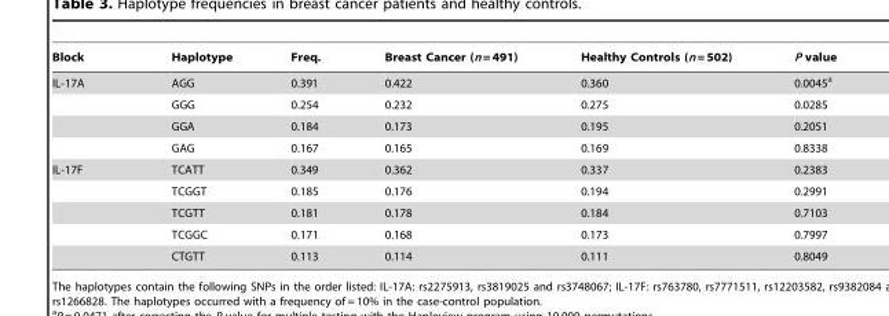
<table><thead><tr><td>Block</td><td>Haplotype</td><td>Freq.</td><td>Breast Cancer (n = 491)</td><td>Healthy Controls (n = 502)</td><td>P value</td></tr></thead><tbody><tr><td rowspan="4">IL-17A</td><td>AGG</td><td>0.391</td><td>0.422</td><td>0.360</td><td>0.0045<sup>a</sup></td></tr><tr><td>GGG</td><td>0.254</td><td>0.232</td><td>0.275</td><td>0.0285</td></tr><tr><td>GGA</td><td>0.184</td><td>0.173</td><td>0.195</td><td>0.2051</td></tr><tr><td>GAG</td><td>0.167</td><td>0.165</td><td>0.169</td><td>0.8338</td></tr><tr><td rowspan="5">IL-17F</td><td>TCATT</td><td>0.349</td><td>0.362</td><td>0.337</td><td>0.2383</td></tr><tr><td>TCGGT</td><td>0.185</td><td>0.176</td><td>0.194</td><td>0.2991</td></tr><tr><td>TCGTT</td><td>0.181</td><td>0.178</td><td>0.184</td><td>0.7103</td></tr><tr><td>TCGGC</td><td>0.171</td><td>0.168</td><td>0.173</td><td>0.7997</td></tr><tr><td>CTGTT</td><td>0.113</td><td>0.114</td><td>0.111</td><td>0.8049</td></tr></tbody></table>